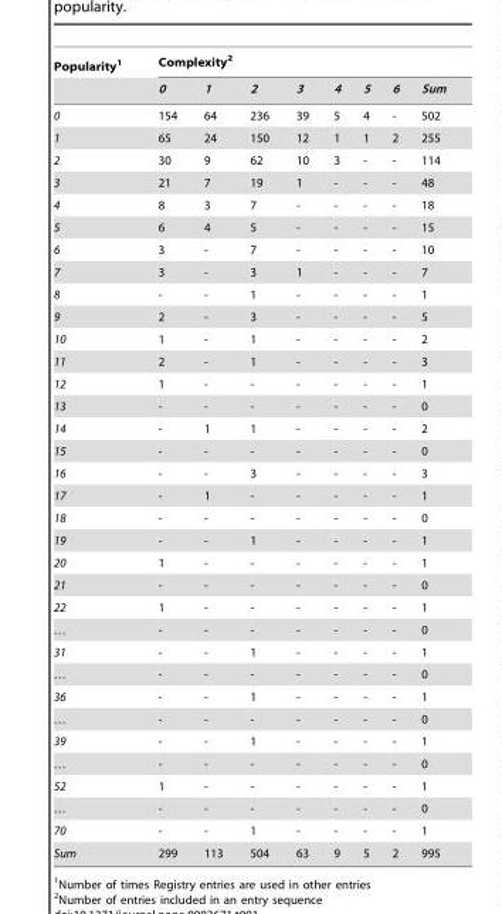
<table><thead><tr><td rowspan="2">Popularity<sup>1</sup></td><td colspan="8">Complexity<sup>2</sup></td></tr><tr><td>0</td><td>1</td><td>2</td><td>3</td><td>4</td><td>5</td><td>6</td><td>Sum</td></tr></thead><tbody><tr><td>0</td><td>154</td><td>64</td><td>236</td><td>39</td><td>5</td><td>4</td><td>-</td><td>502</td></tr><tr><td>1</td><td>65</td><td>24</td><td>150</td><td>12</td><td>1</td><td>1</td><td>2</td><td>255</td></tr><tr><td>2</td><td>30</td><td>9</td><td>62</td><td>10</td><td>3</td><td>-</td><td>-</td><td>114</td></tr><tr><td>3</td><td>21</td><td>7</td><td>19</td><td>1</td><td>-</td><td>-</td><td>-</td><td>48</td></tr><tr><td>4</td><td>8</td><td>3</td><td>7</td><td>-</td><td>-</td><td>-</td><td>-</td><td>18</td></tr><tr><td>5</td><td>6</td><td>4</td><td>5</td><td>-</td><td>-</td><td>-</td><td>-</td><td>15</td></tr><tr><td>6</td><td>3</td><td>-</td><td>7</td><td>-</td><td>-</td><td>-</td><td>-</td><td>10</td></tr><tr><td>7</td><td>3</td><td>-</td><td>3</td><td>1</td><td>-</td><td>-</td><td>-</td><td>7</td></tr><tr><td>8</td><td>-</td><td>-</td><td>1</td><td>-</td><td>-</td><td>-</td><td>-</td><td>1</td></tr><tr><td>9</td><td>2</td><td>-</td><td>3</td><td>-</td><td>-</td><td>-</td><td>-</td><td>5</td></tr><tr><td>10</td><td>1</td><td>-</td><td>1</td><td>-</td><td>-</td><td>-</td><td>-</td><td>2</td></tr><tr><td>11</td><td>2</td><td>-</td><td>1</td><td>-</td><td>-</td><td>-</td><td>-</td><td>3</td></tr><tr><td>12</td><td>1</td><td>-</td><td>-</td><td>-</td><td>-</td><td>-</td><td>-</td><td>1</td></tr><tr><td>13</td><td>-</td><td>-</td><td>-</td><td>-</td><td>-</td><td>-</td><td>-</td><td>0</td></tr><tr><td>14</td><td>-</td><td>1</td><td>1</td><td>-</td><td>-</td><td>-</td><td>-</td><td>2</td></tr><tr><td>15</td><td>-</td><td>-</td><td>-</td><td>-</td><td>-</td><td>-</td><td>-</td><td>0</td></tr><tr><td>16</td><td>-</td><td>-</td><td>3</td><td>-</td><td>-</td><td>-</td><td>-</td><td>3</td></tr><tr><td>17</td><td>-</td><td>1</td><td>-</td><td>-</td><td>-</td><td>-</td><td>-</td><td>1</td></tr><tr><td>18</td><td>-</td><td>-</td><td>-</td><td>-</td><td>-</td><td>-</td><td>-</td><td>0</td></tr><tr><td>19</td><td>-</td><td>-</td><td>1</td><td>-</td><td>-</td><td>-</td><td>-</td><td>1</td></tr><tr><td>20</td><td>1</td><td>-</td><td>-</td><td>-</td><td>-</td><td>-</td><td>-</td><td>1</td></tr><tr><td>21</td><td>-</td><td>-</td><td>-</td><td>-</td><td>-</td><td>-</td><td>-</td><td>0</td></tr><tr><td>22</td><td>1</td><td>-</td><td>-</td><td>-</td><td>-</td><td>-</td><td>-</td><td>1</td></tr><tr><td>…</td><td>-</td><td>-</td><td>-</td><td>-</td><td>-</td><td>-</td><td>-</td><td>0</td></tr><tr><td>31</td><td>-</td><td>-</td><td>1</td><td>-</td><td>-</td><td>-</td><td>-</td><td>1</td></tr><tr><td>…</td><td>-</td><td>-</td><td>-</td><td>-</td><td>-</td><td>-</td><td>-</td><td>0</td></tr><tr><td>36</td><td>-</td><td>-</td><td>1</td><td>-</td><td>-</td><td>-</td><td>-</td><td>1</td></tr><tr><td>…</td><td>-</td><td>-</td><td>-</td><td>-</td><td>-</td><td>-</td><td>-</td><td>0</td></tr><tr><td>39</td><td>-</td><td>-</td><td>1</td><td>-</td><td>-</td><td>-</td><td>-</td><td>1</td></tr><tr><td>…</td><td>-</td><td>-</td><td>-</td><td>-</td><td>-</td><td>-</td><td>-</td><td>0</td></tr><tr><td>52</td><td>1</td><td>-</td><td>-</td><td>-</td><td>-</td><td>-</td><td>-</td><td>1</td></tr><tr><td>…</td><td>-</td><td>-</td><td>-</td><td>-</td><td>-</td><td>-</td><td>-</td><td>0</td></tr><tr><td>70</td><td>-</td><td>-</td><td>1</td><td>-</td><td>-</td><td>-</td><td>-</td><td>1</td></tr><tr><td>Sum</td><td>299</td><td>113</td><td>504</td><td>63</td><td>9</td><td>5</td><td>2</td><td>995</td></tr></tbody></table>